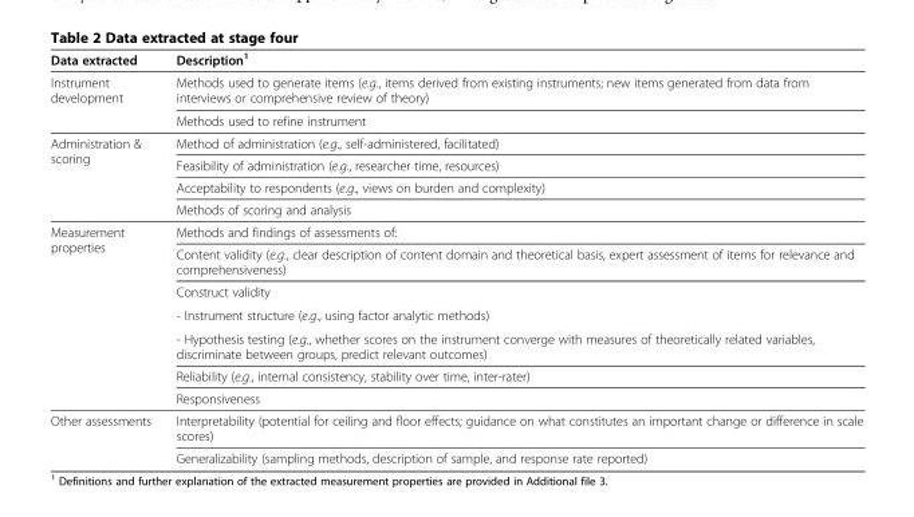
<table><thead><tr><td>Data extracted</td><td>Description<sup>1</sup></td></tr></thead><tbody><tr><td rowspan="2">Instrument development</td><td>Methods used to generate items (e.g., items derived from existing instruments; new items generated from data from interviews or comprehensive review of theory)</td></tr><tr><td>Methods used to refine instrument</td></tr><tr><td rowspan="4">Administration &amp; scoring</td><td>Method of administration (e.g., self-administered, facilitated)</td></tr><tr><td>Feasibility of administration (e.g., researcher time, resources)</td></tr><tr><td>Acceptability to respondents (e.g., views on burden and complexity)</td></tr><tr><td>Methods of scoring and analysis</td></tr><tr><td rowspan="7">Measurement properties</td><td>Methods and findings of assessments of:</td></tr><tr><td>Content validity (e.g., clear description of content domain and theoretical basis, expert assessment of items for relevance and comprehensiveness)</td></tr><tr><td>Construct validity</td></tr><tr><td>- Instrument structure (e.g., using factor analytic methods)</td></tr><tr><td>- Hypothesis testing (e.g., whether scores on the instrument converge with measures of theoretically related variables, discriminate between groups, predict relevant outcomes)</td></tr><tr><td>Reliability (e.g., internal consistency, stability over time, inter-rater)</td></tr><tr><td>Responsiveness</td></tr><tr><td rowspan="2">Other assessments</td><td>Interpretability (potential for ceiling and floor effects; guidance on what constitutes an important change or difference in scale scores)</td></tr><tr><td>Generalizability (sampling methods, description of sample, and response rate reported)</td></tr></tbody></table>